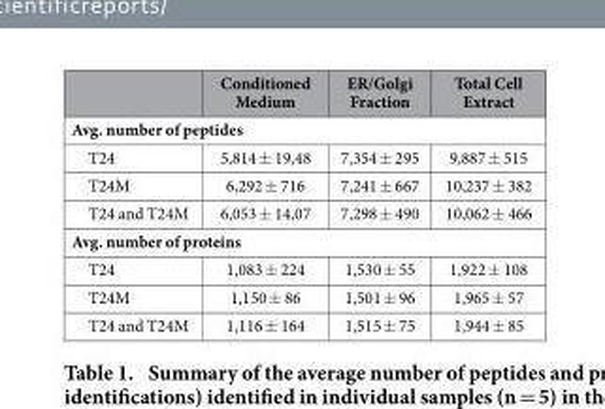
<table><thead><tr><td></td><td>Conditioned Medium</td><td>ER/Golgi Fraction</td><td>Total Cell Extract</td></tr></thead><tbody><tr><td colspan="4">Avg. number of peptides</td></tr><tr><td>T24</td><td>5,814 ± 19,48</td><td>7,354 ± 295</td><td>9,887 ± 515</td></tr><tr><td>T24M</td><td>6,292 ± 716</td><td>7,241 ± 667</td><td>10,237 ± 382</td></tr><tr><td>T24 and T24M</td><td>6,053 ± 14,07</td><td>7,298 ± 490</td><td>10,062 ± 466</td></tr><tr><td colspan="4">Avg. number of proteins</td></tr><tr><td>T24</td><td>1,083 ± 224</td><td>1,530 ± 55</td><td>1,922 ± 108</td></tr><tr><td>T24M</td><td>1,150 ± 86</td><td>1,501 ± 96</td><td>1,965 ± 57</td></tr><tr><td>T24 and T24M</td><td>1,116 ± 164</td><td>1,515 ± 75</td><td>1,944 ± 85</td></tr></tbody></table>